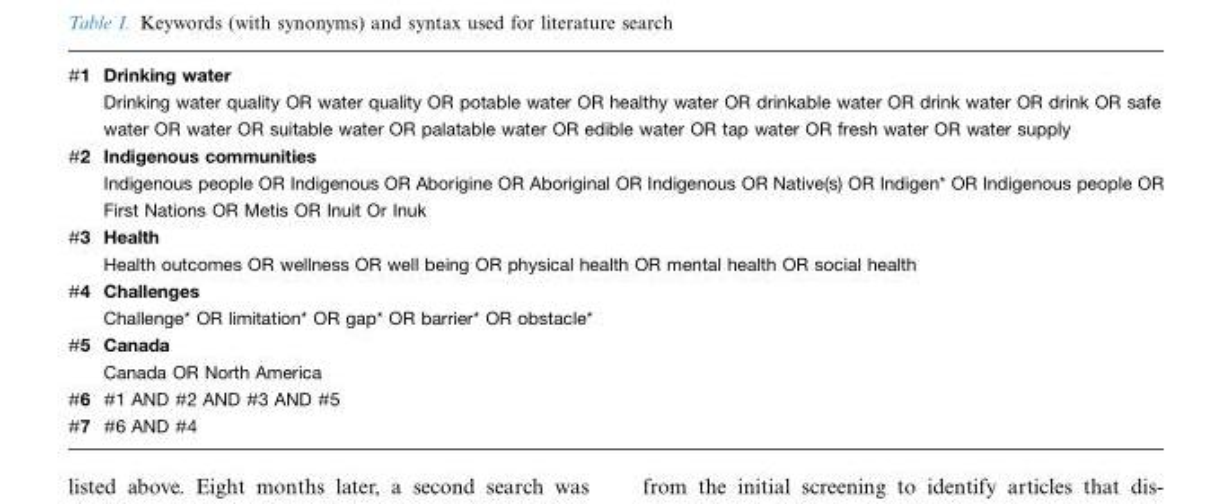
<table><tbody><tr><td>#1</td><td>Drinking water Drinking water quality OR water quality OR potable water OR healthy water OR drinkable water OR drink water OR drink OR safe water OR water OR suitable water OR palatable water OR edible water OR tap water OR fresh water OR water supply</td></tr><tr><td>#2</td><td>Indigenous communities Indigenous people OR Indigenous OR Aborigine OR Aboriginal OR Indigenous OR Native(s) OR Indigen* OR Indigenous people OR First Nations OR Metis OR Inuit Or Inuk</td></tr><tr><td>#3</td><td>Health Health outcomes OR wellness OR well being OR physical health OR mental health OR social health</td></tr><tr><td>#4</td><td>Challenges Challenge* OR limitation* OR gap* OR barrier* OR obstacle*</td></tr><tr><td>#5</td><td>Canada Canada OR North America</td></tr><tr><td>#6</td><td>#1 AND #2 AND #3 AND #5</td></tr><tr><td>#7</td><td>#6 AND #4</td></tr></tbody></table>